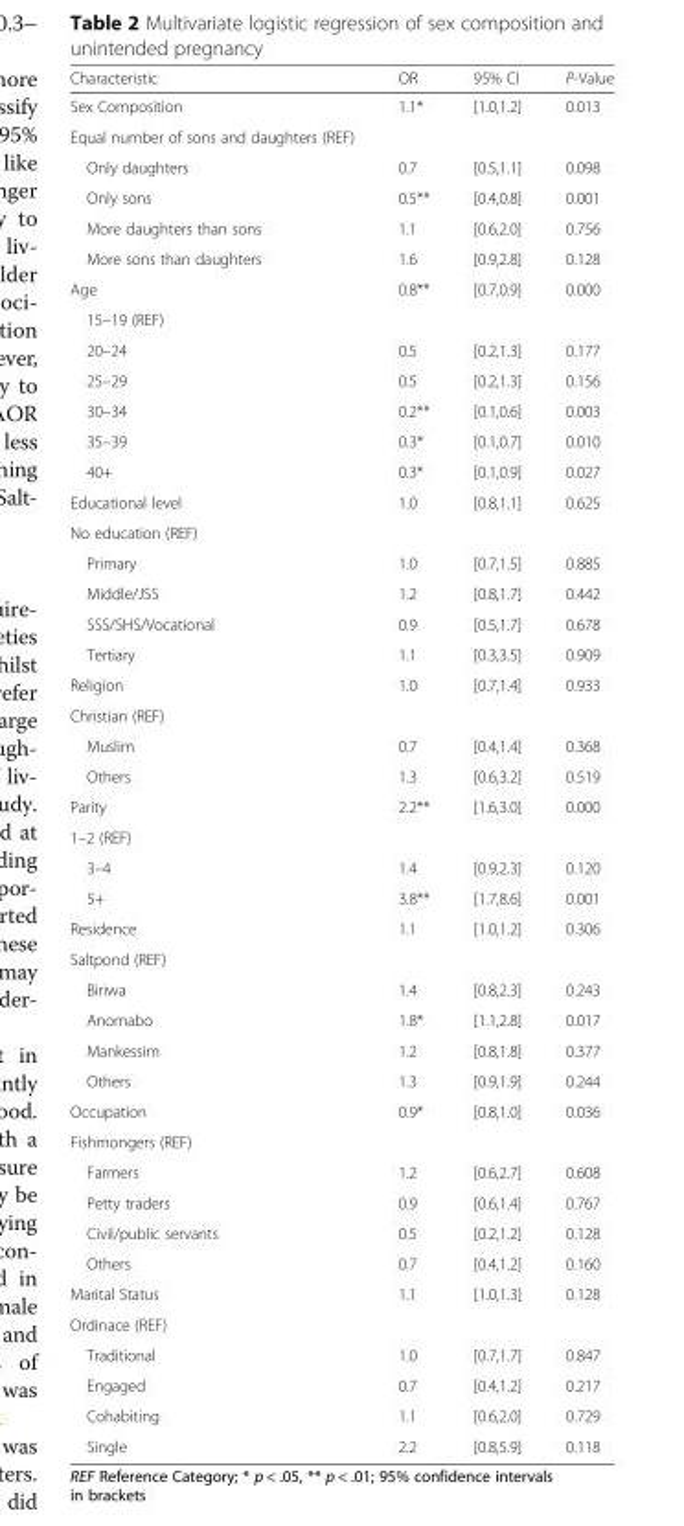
<table><thead><tr><td>Characteristic</td><td>OR</td><td>95% CI</td><td>P-Value</td></tr></thead><tbody><tr><td>Sex Composition</td><td>1.1*</td><td>[1.0,1.2]</td><td>0.013</td></tr><tr><td colspan="4">Equal number of sons and daughters (REF)</td></tr><tr><td>Only daughters</td><td>0.7</td><td>[0.5,1.1]</td><td>0.098</td></tr><tr><td>Only sons</td><td>0.5**</td><td>[0.4,0.8]</td><td>0.001</td></tr><tr><td>More daughters than sons</td><td>1.1</td><td>[0.6,2.0]</td><td>0.756</td></tr><tr><td>More sons than daughters</td><td>1.6</td><td>[0.9,2.8]</td><td>0.128</td></tr><tr><td>Age</td><td>0.8**</td><td>[0.7,0.9]</td><td>0.000</td></tr><tr><td colspan="4">15–19 (REF)</td></tr><tr><td>20–24</td><td>0.5</td><td>[0.2,1.3]</td><td>0.177</td></tr><tr><td>25–29</td><td>0.5</td><td>[0.2,1.3]</td><td>0.156</td></tr><tr><td>30–34</td><td>0.2**</td><td>[0.1,0.6]</td><td>0.003</td></tr><tr><td>35–39</td><td>0.3*</td><td>[0.1,0.7]</td><td>0.010</td></tr><tr><td>40+</td><td>0.3*</td><td>[0.1,0.9]</td><td>0.027</td></tr><tr><td>Educational level</td><td>1.0</td><td>[0.8,1.1]</td><td>0.625</td></tr><tr><td colspan="4">No education (REF)</td></tr><tr><td>Primary</td><td>1.0</td><td>[0.7,1.5]</td><td>0.885</td></tr><tr><td>Middle/JSS</td><td>1.2</td><td>[0.8,1.7]</td><td>0.442</td></tr><tr><td>SSS/SHS/Vocational</td><td>0.9</td><td>[0.5,1.7]</td><td>0.678</td></tr><tr><td>Tertiary</td><td>1.1</td><td>[0.3,3.5]</td><td>0.909</td></tr><tr><td>Religion</td><td>1.0</td><td>[0.7,1.4]</td><td>0.933</td></tr><tr><td colspan="4">Christian (REF)</td></tr><tr><td>Muslim</td><td>0.7</td><td>[0.4,1.4]</td><td>0.368</td></tr><tr><td>Others</td><td>1.3</td><td>[0.6,3.2]</td><td>0.519</td></tr><tr><td>Parity</td><td>2.2**</td><td>[1.6,3.0]</td><td>0.000</td></tr><tr><td colspan="4">1–2 (REF)</td></tr><tr><td>3–4</td><td>1.4</td><td>[0.9,2.3]</td><td>0.120</td></tr><tr><td>5+</td><td>3.8**</td><td>[1.7,8.6]</td><td>0.001</td></tr><tr><td>Residence</td><td>1.1</td><td>[1.0,1.2]</td><td>0.306</td></tr><tr><td colspan="4">Saltpond (REF)</td></tr><tr><td>Biriwa</td><td>1.4</td><td>[0.8,2.3]</td><td>0.243</td></tr><tr><td>Anomabo</td><td>1.8*</td><td>[1.1,2.8]</td><td>0.017</td></tr><tr><td>Mankessim</td><td>1.2</td><td>[0.8,1.8]</td><td>0.377</td></tr><tr><td>Others</td><td>1.3</td><td>[0.9,1.9]</td><td>0.244</td></tr><tr><td>Occupation</td><td>0.9*</td><td>[0.8,1.0]</td><td>0.036</td></tr><tr><td colspan="4">Fishmongers (REF)</td></tr><tr><td>Farmers</td><td>1.2</td><td>[0.6,2.7]</td><td>0.608</td></tr><tr><td>Petty traders</td><td>0.9</td><td>[0.6,1.4]</td><td>0.767</td></tr><tr><td>Civil/public servants</td><td>0.5</td><td>[0.2,1.2]</td><td>0.128</td></tr><tr><td>Others</td><td>0.7</td><td>[0.4,1.2]</td><td>0.160</td></tr><tr><td>Marital Status</td><td>1.1</td><td>[1.0,1.3]</td><td>0.128</td></tr><tr><td colspan="4">Ordinace (REF)</td></tr><tr><td>Traditional</td><td>1.0</td><td>[0.7,1.7]</td><td>0.847</td></tr><tr><td>Engaged</td><td>0.7</td><td>[0.4,1.2]</td><td>0.217</td></tr><tr><td>Cohabiting</td><td>1.1</td><td>[0.6,2.0]</td><td>0.729</td></tr><tr><td>Single</td><td>2.2</td><td>[0.8,5.9]</td><td>0.118</td></tr></tbody></table>